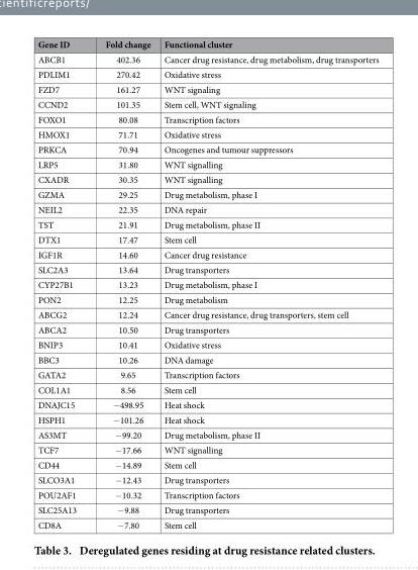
<table><thead><tr><td>Gene ID</td><td>Fold change</td><td>Functional cluster</td></tr></thead><tbody><tr><td>ABCB1</td><td>402.36</td><td>Cancer drug resistance, drug metabolism, drug transporters</td></tr><tr><td>PDLIM1</td><td>270.42</td><td>Oxidative stress</td></tr><tr><td>FZD7</td><td>161.27</td><td>WNT signaling</td></tr><tr><td>CCND2</td><td>101.35</td><td>Stem cell, WNT signaling</td></tr><tr><td>FOXO1</td><td>80.08</td><td>Transcription factors</td></tr><tr><td>HMOX1</td><td>71.71</td><td>Oxidative stress</td></tr><tr><td>PRKCA</td><td>70.94</td><td>Oncogenes and tumour suppressors</td></tr><tr><td>LRP5</td><td>31.80</td><td>WNT signalling</td></tr><tr><td>CXADR</td><td>30.35</td><td>WNT signalling</td></tr><tr><td>GZMA</td><td>29.25</td><td>Drug metabolism, phase I</td></tr><tr><td>NEIL2</td><td>22.35</td><td>DNA repair</td></tr><tr><td>TST</td><td>21.91</td><td>Drug metabolism, phase II</td></tr><tr><td>DTX1</td><td>17.47</td><td>Stem cell</td></tr><tr><td>IGF1R</td><td>14.60</td><td>Cancer drug resistance</td></tr><tr><td>SLC2A3</td><td>13.64</td><td>Drug transporters</td></tr><tr><td>CYP27B1</td><td>13.23</td><td>Drug metabolism, phase I</td></tr><tr><td>PON2</td><td>12.25</td><td>Drug metabolism</td></tr><tr><td>ABCG2</td><td>12.24</td><td>Cancer drug resistance, drug transporters, stem cell</td></tr><tr><td>ABCA2</td><td>10.50</td><td>Drug transporters</td></tr><tr><td>BNIP3</td><td>10.41</td><td>Oxidative stress</td></tr><tr><td>BBC3</td><td>10.26</td><td>DNA damage</td></tr><tr><td>GATA2</td><td>9.65</td><td>Transcription factors</td></tr><tr><td>COL1A1</td><td>8.56</td><td>Stem cell</td></tr><tr><td>DNAJC15</td><td>− 498.95</td><td>Heat shock</td></tr><tr><td>HSPH1</td><td>− 101.26</td><td>Heat shock</td></tr><tr><td>AS3MT</td><td>− 99.20</td><td>Drug metabolism, phase II</td></tr><tr><td>TCF7</td><td>− 17.66</td><td>WNT signalling</td></tr><tr><td>CD44</td><td>− 14.89</td><td>Stem cell</td></tr><tr><td>SLCO3A1</td><td>− 12.43</td><td>Drug transporters</td></tr><tr><td>POU2AF1</td><td>− 10.32</td><td>Transcription factors</td></tr><tr><td>SLC25A13</td><td>− 9.88</td><td>Drug transporters</td></tr><tr><td>CD8A</td><td>− 7.80</td><td>Stem cell</td></tr></tbody></table>